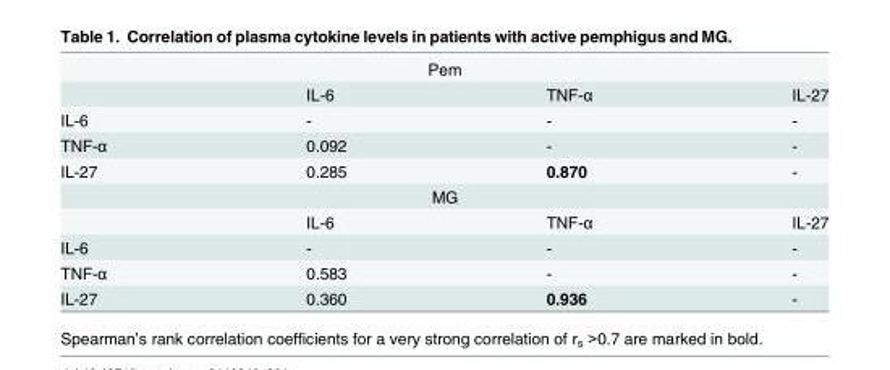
<table><tbody><tr><td colspan="4">Pem</td></tr><tr><td></td><td>IL-6</td><td>TNF-α</td><td>IL-27</td></tr><tr><td>IL-6</td><td>-</td><td>-</td><td>-</td></tr><tr><td>TNF-α</td><td>0.092</td><td>-</td><td>-</td></tr><tr><td>IL-27</td><td>0.285</td><td>0.870</td><td>-</td></tr><tr><td colspan="4">MG</td></tr><tr><td></td><td>IL-6</td><td>TNF-α</td><td>IL-27</td></tr><tr><td>IL-6</td><td>-</td><td>-</td><td>-</td></tr><tr><td>TNF-α</td><td>0.583</td><td>-</td><td>-</td></tr><tr><td>IL-27</td><td>0.360</td><td>0.936</td><td>-</td></tr></tbody></table>